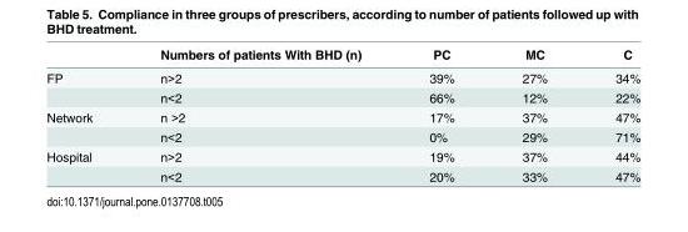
<table><thead><tr><td></td><td>Numbers of patients With BHD (n)</td><td>PC</td><td>MC</td><td>C</td></tr></thead><tbody><tr><td rowspan="2">FP</td><td>n&gt;2</td><td>39%</td><td>27%</td><td>34%</td></tr><tr><td>n&lt;2</td><td>66%</td><td>12%</td><td>22%</td></tr><tr><td rowspan="2">Network</td><td>n &gt;2</td><td>17%</td><td>37%</td><td>47%</td></tr><tr><td>n&lt;2</td><td>0%</td><td>29%</td><td>71%</td></tr><tr><td rowspan="2">Hospital</td><td>n&gt;2</td><td>19%</td><td>37%</td><td>44%</td></tr><tr><td>n&lt;2</td><td>20%</td><td>33%</td><td>47%</td></tr></tbody></table>